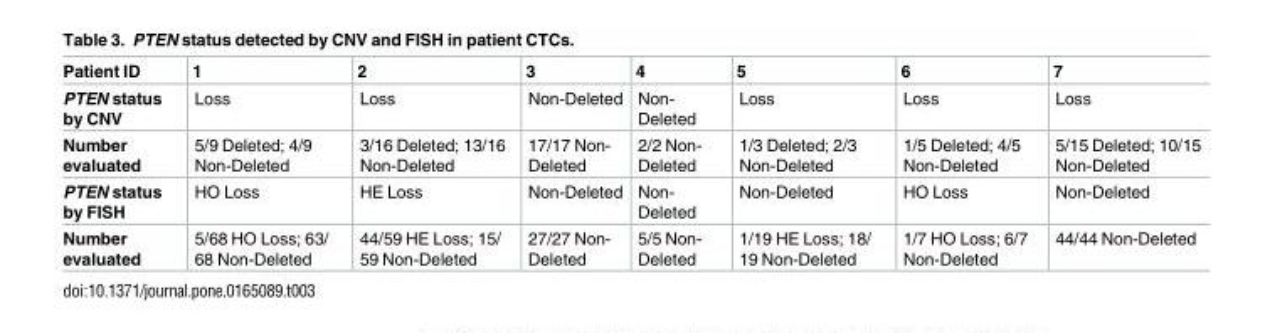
<table><thead><tr><td>Patient ID</td><td>1</td><td>2</td><td>3</td><td>4</td><td>5</td><td>6</td><td>7</td></tr></thead><tbody><tr><td>PTEN status by CNV</td><td>Loss</td><td>Loss</td><td>Non-Deleted</td><td>Non- Deleted</td><td>Loss</td><td>Loss</td><td>Loss</td></tr><tr><td>Number evaluated</td><td>5/9 Deleted; 4/9 Non-Deleted</td><td>3/16 Deleted; 13/16 Non-Deleted</td><td>17/17 Non- Deleted</td><td>2/2 Non- Deleted</td><td>1/3 Deleted; 2/3 Non-Deleted</td><td>1/5 Deleted; 4/5 Non-Deleted</td><td>5/15 Deleted; 10/15 Non-Deleted</td></tr><tr><td>PTEN status by FISH</td><td>HO Loss</td><td>HE Loss</td><td>Non-Deleted</td><td>Non- Deleted</td><td>Non-Deleted</td><td>HO Loss</td><td>Non-Deleted</td></tr><tr><td>Number evaluated</td><td>5/68 HO Loss; 63/ 68 Non-Deleted</td><td>44/59 HE Loss; 15/ 59 Non-Deleted</td><td>27/27 Non- Deleted</td><td>5/5 Non- Deleted</td><td>1/19 HE Loss; 18/ 19 Non-Deleted</td><td>1/7 HO Loss; 6/7 Non-Deleted</td><td>44/44 Non-Deleted</td></tr></tbody></table>